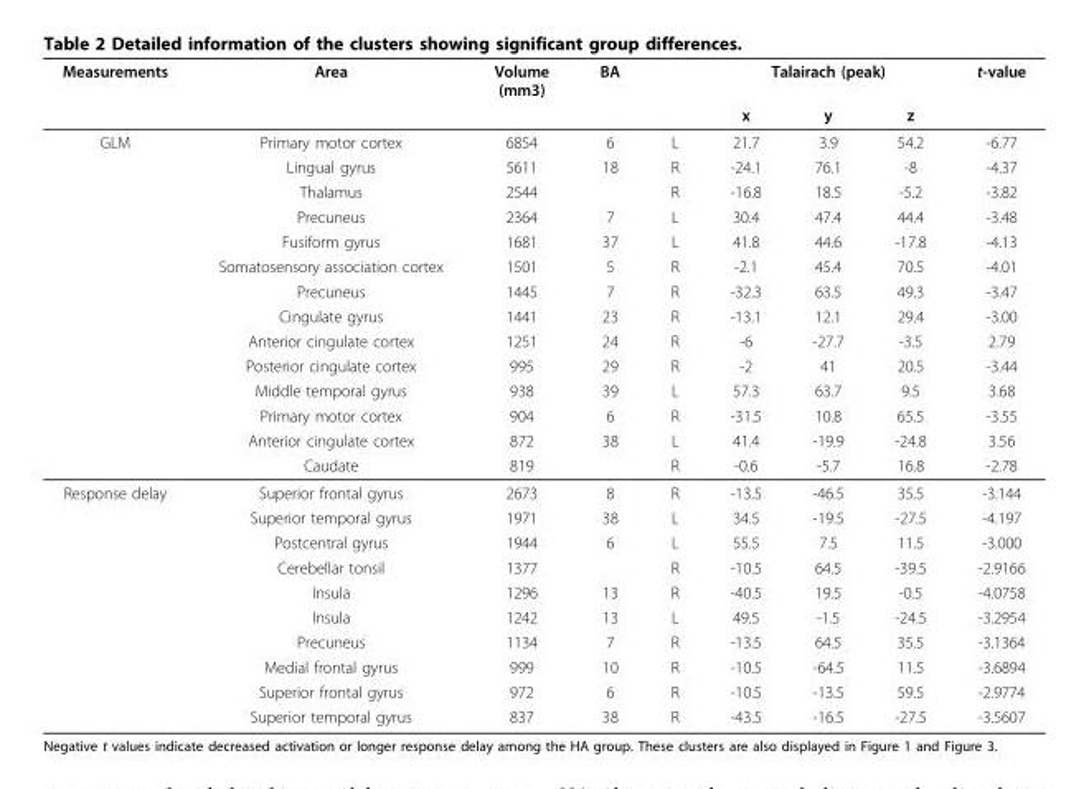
<table><thead><tr><td rowspan="2">Measurements</td><td rowspan="2">Area</td><td rowspan="2">Volume (mm3)</td><td rowspan="2">BA</td><td rowspan="2"></td><td colspan="3">Talairach (peak)</td><td rowspan="2">t-value</td></tr><tr><td>x</td><td>y</td><td>z</td></tr></thead><tbody><tr><td rowspan="14">GLM</td><td>Primary motor cortex</td><td>6854</td><td>6</td><td>L</td><td>21.7</td><td>3.9</td><td>54.2</td><td>-6.77</td></tr><tr><td>Lingual gyrus</td><td>5611</td><td>18</td><td>R</td><td>-24.1</td><td>76.1</td><td>-8</td><td>-4.37</td></tr><tr><td>Thalamus</td><td>2544</td><td></td><td>R</td><td>-16.8</td><td>18.5</td><td>-5.2</td><td>-3.82</td></tr><tr><td>Precuneus</td><td>2364</td><td>7</td><td>L</td><td>30.4</td><td>47.4</td><td>44.4</td><td>-3.48</td></tr><tr><td>Fusiform gyrus</td><td>1681</td><td>37</td><td>L</td><td>41.8</td><td>44.6</td><td>-17.8</td><td>-4.13</td></tr><tr><td>Somatosensory association cortex</td><td>1501</td><td>5</td><td>R</td><td>-2.1</td><td>45.4</td><td>70.5</td><td>-4.01</td></tr><tr><td>Precuneus</td><td>1445</td><td>7</td><td>R</td><td>-32.3</td><td>63.5</td><td>49.3</td><td>-3.47</td></tr><tr><td>Cingulate gyrus</td><td>1441</td><td>23</td><td>R</td><td>-13.1</td><td>12.1</td><td>29.4</td><td>-3.00</td></tr><tr><td>Anterior cingulate cortex</td><td>1251</td><td>24</td><td>R</td><td>-6</td><td>-27.7</td><td>-3.5</td><td>2.79</td></tr><tr><td>Posterior cingulate cortex</td><td>995</td><td>29</td><td>R</td><td>-2</td><td>41</td><td>20.5</td><td>-3.44</td></tr><tr><td>Middle temporal gyrus</td><td>938</td><td>39</td><td>L</td><td>57.3</td><td>63.7</td><td>9.5</td><td>3.68</td></tr><tr><td>Primary motor cortex</td><td>904</td><td>6</td><td>R</td><td>-31.5</td><td>10.8</td><td>65.5</td><td>-3.55</td></tr><tr><td>Anterior cingulate cortex</td><td>872</td><td>38</td><td>L</td><td>41.4</td><td>-19.9</td><td>-24.8</td><td>3.56</td></tr><tr><td>Caudate</td><td>819</td><td></td><td>R</td><td>-0.6</td><td>-5.7</td><td>16.8</td><td>-2.78</td></tr><tr><td rowspan="10">Response delay</td><td>Superior frontal gyrus</td><td>2673</td><td>8</td><td>R</td><td>-13.5</td><td>-46.5</td><td>35.5</td><td>-3.144</td></tr><tr><td>Superior temporal gyrus</td><td>1971</td><td>38</td><td>L</td><td>34.5</td><td>-19.5</td><td>-27.5</td><td>-4.197</td></tr><tr><td>Postcentral gyrus</td><td>1944</td><td>6</td><td>L</td><td>55.5</td><td>7.5</td><td>11.5</td><td>-3.000</td></tr><tr><td>Cerebellar tonsil</td><td>1377</td><td></td><td>R</td><td>-10.5</td><td>64.5</td><td>-39.5</td><td>-2.9166</td></tr><tr><td>Insula</td><td>1296</td><td>13</td><td>R</td><td>-40.5</td><td>19.5</td><td>-0.5</td><td>-4.0758</td></tr><tr><td>Insula</td><td>1242</td><td>13</td><td>L</td><td>49.5</td><td>-1.5</td><td>-24.5</td><td>-3.2954</td></tr><tr><td>Precuneus</td><td>1134</td><td>7</td><td>R</td><td>-13.5</td><td>64.5</td><td>35.5</td><td>-3.1364</td></tr><tr><td>Medial frontal gyrus</td><td>999</td><td>10</td><td>R</td><td>-10.5</td><td>-64.5</td><td>11.5</td><td>-3.6894</td></tr><tr><td>Superior frontal gyrus</td><td>972</td><td>6</td><td>R</td><td>-10.5</td><td>-13.5</td><td>59.5</td><td>-2.9774</td></tr><tr><td>Superior temporal gyrus</td><td>837</td><td>38</td><td>R</td><td>-43.5</td><td>-16.5</td><td>-27.5</td><td>-3.5607</td></tr></tbody></table>